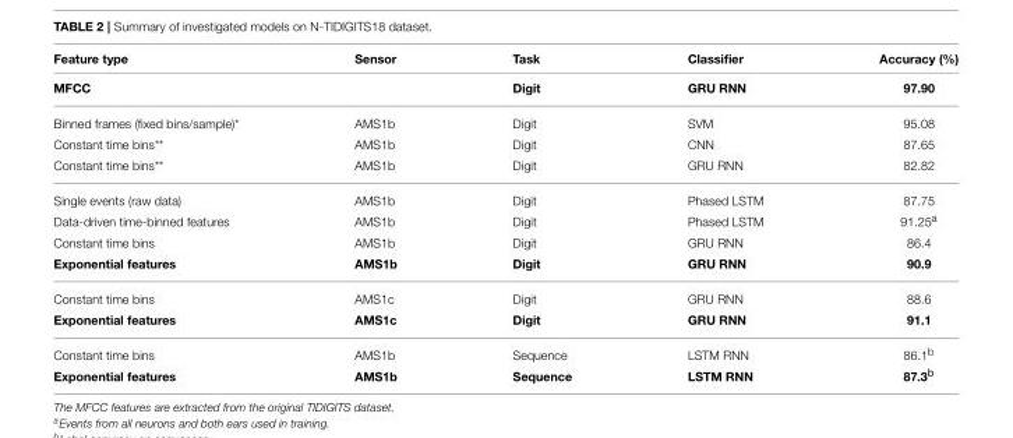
<table><thead><tr><td rowspan="2">Feature type MFCC</td><td rowspan="2">Sensor</td><td rowspan="2">Task Digit</td><td rowspan="2">Classifier GRU RNN</td><td rowspan="2">Accuracy (%) 97.90</td></tr><tr></tr></thead><tbody><tr><td>Binned frames (fixed bins/sample)*</td><td>AMS1b</td><td>Digit</td><td>SVM</td><td>95.08</td></tr><tr><td>Constant time bins**</td><td>AMS1b</td><td>Digit</td><td>CNN</td><td>87.65</td></tr><tr><td>Constant time bins**</td><td>AMS1b</td><td>Digit</td><td>GRU RNN</td><td>82.82</td></tr><tr><td>Single events (raw data)</td><td>AMS1b</td><td>Digit</td><td>Phased LSTM</td><td>87.75</td></tr><tr><td>Data-driven time-binned features</td><td>AMS1b</td><td>Digit</td><td>Phased LSTM</td><td>91.25<sup>a</sup></td></tr><tr><td>Constant time bins</td><td>AMS1b</td><td>Digit</td><td>GRU RNN</td><td>86.4</td></tr><tr><td>Exponential features</td><td>AMS1b</td><td>Digit</td><td>GRU RNN</td><td>90.9</td></tr><tr><td>Constant time bins</td><td>AMS1c</td><td>Digit</td><td>GRU RNN</td><td>88.6</td></tr><tr><td>Exponential features</td><td>AMS1c</td><td>Digit</td><td>GRU RNN</td><td>91.1</td></tr><tr><td>Constant time bins</td><td>AMS1b</td><td>Sequence</td><td>LSTM RNN</td><td>86.1<sup>b</sup></td></tr><tr><td>Exponential features</td><td>AMS1b</td><td>Sequence</td><td>LSTM RNN</td><td>87.3<sup>b</sup></td></tr></tbody></table>